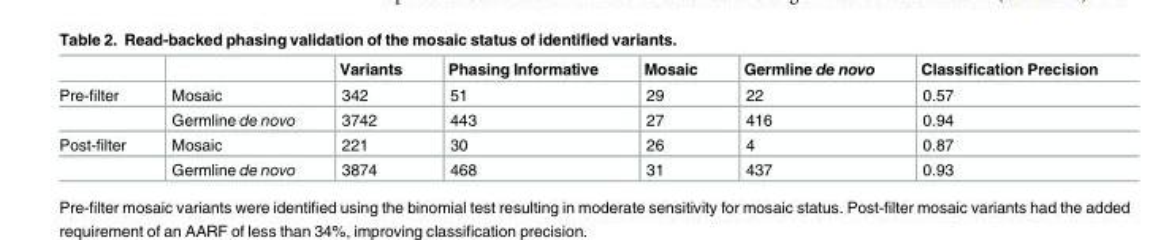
<table><thead><tr><td></td><td></td><td>Variants</td><td>Phasing Informative</td><td>Mosaic</td><td>Germline de novo</td><td>Classification Precision</td></tr></thead><tbody><tr><td rowspan="2">Pre-filter</td><td>Mosaic</td><td>342</td><td>51</td><td>29</td><td>22</td><td>0.57</td></tr><tr><td>Germline de novo</td><td>3742</td><td>443</td><td>27</td><td>416</td><td>0.94</td></tr><tr><td rowspan="2">Post-filter</td><td>Mosaic</td><td>221</td><td>30</td><td>26</td><td>4</td><td>0.87</td></tr><tr><td>Germline de novo</td><td>3874</td><td>468</td><td>31</td><td>437</td><td>0.93</td></tr></tbody></table>